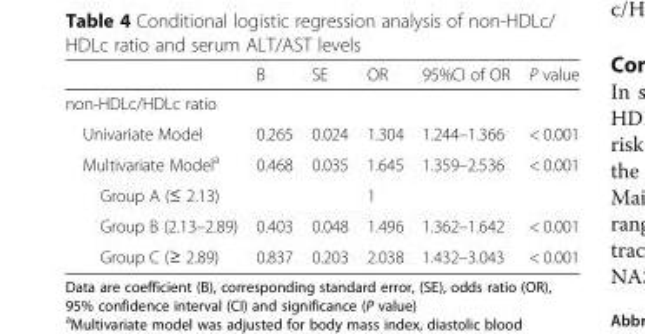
<table><thead><tr><td></td><td>B</td><td>SE</td><td>OR</td><td>95%CI of OR</td><td>P value</td></tr></thead><tbody><tr><td colspan="6">non-HDLc/HDLc ratio</td></tr><tr><td>Univariate Model</td><td>0.265</td><td>0.024</td><td>1.304</td><td>1.244–1.366</td><td>&lt; 0.001</td></tr><tr><td>Multivariate Model<sup>a</sup></td><td>0.468</td><td>0.035</td><td>1.645</td><td>1.359–2.536</td><td>&lt; 0.001</td></tr><tr><td>Group A (≤ 2.13)</td><td></td><td></td><td>1</td><td></td><td></td></tr><tr><td>Group B (2.13–2.89)</td><td>0.403</td><td>0.048</td><td>1.496</td><td>1.362–1.642</td><td>&lt; 0.001</td></tr><tr><td>Group C (≥ 2.89)</td><td>0.837</td><td>0.203</td><td>2.038</td><td>1.432–3.043</td><td>&lt; 0.001</td></tr></tbody></table>